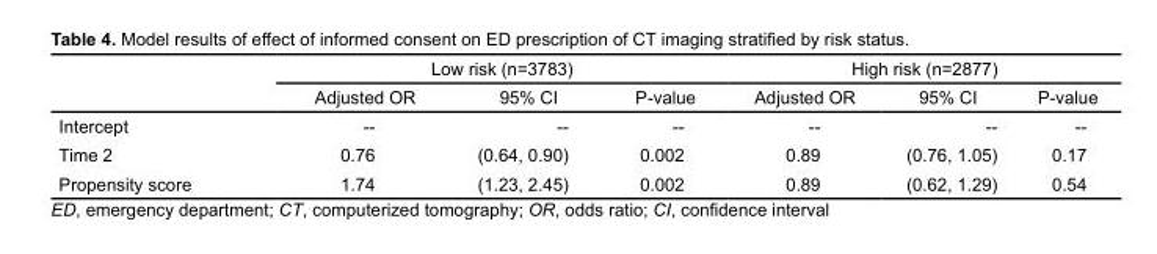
<table><thead><tr><td rowspan="2"></td><td colspan="3">Low risk (n=3783)</td><td colspan="3">High risk (n=2877)</td></tr><tr><td>Adjusted OR</td><td>95% CI</td><td>P-value</td><td>Adjusted OR</td><td>95% CI</td><td>P-value</td></tr></thead><tbody><tr><td>Intercept</td><td>--</td><td>--</td><td>--</td><td>--</td><td>--</td><td>--</td></tr><tr><td>Time 2</td><td>0.76</td><td>(0.64, 0.90)</td><td>0.002</td><td>0.89</td><td>(0.76, 1.05)</td><td>0.17</td></tr><tr><td>Propensity score</td><td>1.74</td><td>(1.23, 2.45)</td><td>0.002</td><td>0.89</td><td>(0.62, 1.29)</td><td>0.54</td></tr></tbody></table>